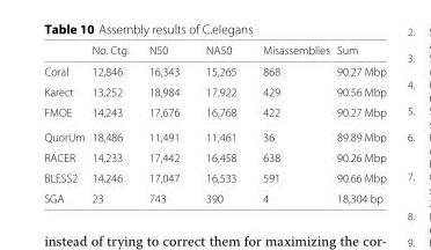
<table><thead><tr><td></td><td>No. Ctg.</td><td>N50</td><td>NA50</td><td>Misassemblies</td><td>Sum</td></tr></thead><tbody><tr><td>Coral</td><td>12,846</td><td>16,343</td><td>15,265</td><td>868</td><td>90.27 Mbp</td></tr><tr><td>Karect</td><td>13,252</td><td>18,984</td><td>17,922</td><td>429</td><td>90.56 Mbp</td></tr><tr><td>FMOE</td><td>14,243</td><td>17,676</td><td>16,768</td><td>422</td><td>90.27 Mbp</td></tr><tr><td>QuorUm</td><td>18,486</td><td>11,491</td><td>11,461</td><td>36</td><td>89.89 Mbp</td></tr><tr><td>RACER</td><td>14,233</td><td>17,442</td><td>16,458</td><td>638</td><td>90.26 Mbp</td></tr><tr><td>BLESS2</td><td>14,246</td><td>17,047</td><td>16,533</td><td>591</td><td>90.66 Mbp</td></tr><tr><td>SGA</td><td>23</td><td>743</td><td>390</td><td>4</td><td>18,304 bp</td></tr></tbody></table>